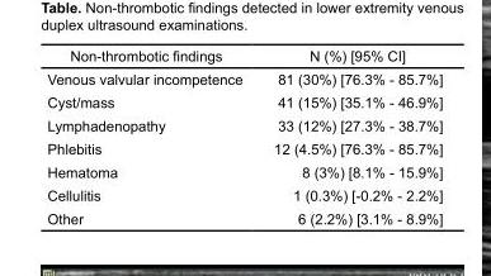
<table><thead><tr><td>Non-thrombotic findings</td><td>N (%) [95% CI]</td></tr></thead><tbody><tr><td>Venous valvular incompetence</td><td>81 (30%) [76.3% - 85.7%]</td></tr><tr><td>Cyst/mass</td><td>41 (15%) [35.1% - 46.9%]</td></tr><tr><td>Lymphadenopathy</td><td>33 (12%) [27.3% - 38.7%]</td></tr><tr><td>Phlebitis</td><td>12 (4.5%) [76.3% - 85.7%]</td></tr><tr><td>Hematoma</td><td>8 (3%) [8.1% - 15.9%]</td></tr><tr><td>Cellulitis</td><td>1 (0.3%) [-0.2% - 2.2%]</td></tr><tr><td>Other</td><td>6 (2.2%) [3.1% - 8.9%]</td></tr></tbody></table>